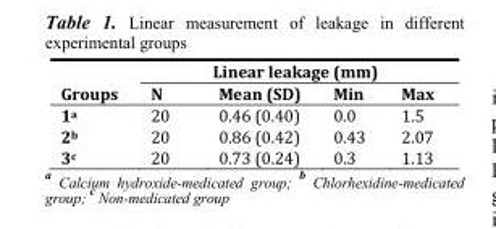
<table><thead><tr><td rowspan="2">Groups</td><td colspan="4">Linear leakage (mm)</td></tr><tr><td>N</td><td>Mean (SD)</td><td>Min</td><td>Max</td></tr></thead><tbody><tr><td>1<sup>a</sup></td><td>20</td><td>0.46 (0.40)</td><td>0.0</td><td>1.5</td></tr><tr><td>2<sup>b</sup></td><td>20</td><td>0.86 (0.42)</td><td>0.43</td><td>2.07</td></tr><tr><td>3<sup>c</sup></td><td>20</td><td>0.73 (0.24)</td><td>0.3</td><td>1.13</td></tr></tbody></table>